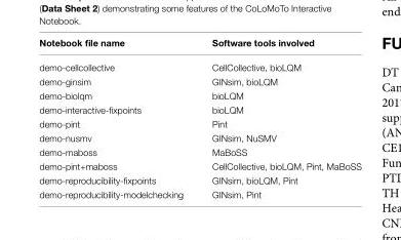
<table><thead><tr><td>Notebook file name</td><td>Software tools involved</td></tr></thead><tbody><tr><td>demo-cellcollective</td><td>CellCollective, bioLQM</td></tr><tr><td>demo-ginsim</td><td>GINsim, bioLQM</td></tr><tr><td>demo-biolqm</td><td>bioLQM</td></tr><tr><td>demo-interactive-fixpoints</td><td>bioLQM</td></tr><tr><td>demo-pint</td><td>Pint</td></tr><tr><td>demo-nusmv</td><td>GINsim, NuSMV</td></tr><tr><td>demo-maboss</td><td>MaBoSS</td></tr><tr><td>demo-pint+maboss</td><td>CellCollective, bioLQM, Pint, MaBoSS</td></tr><tr><td>demo-reproducibility-fixpoints</td><td>GINsim, bioLQM, Pint</td></tr><tr><td>demo-reproducibility-modelchecking</td><td>GINsim, Pint</td></tr></tbody></table>